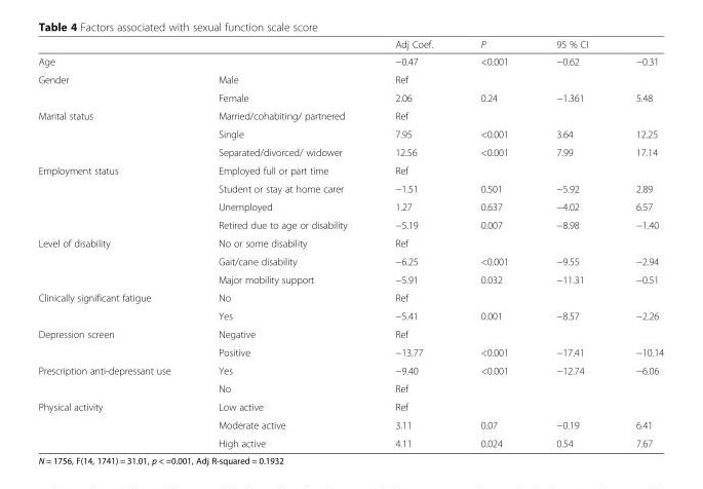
<table><thead><tr><td></td><td></td><td>Adj Coef.</td><td>P</td><td>95 % CI</td><td></td></tr></thead><tbody><tr><td>Age</td><td></td><td>−0.47</td><td>&lt;0.001</td><td>−0.62</td><td>−0.31</td></tr><tr><td rowspan="2">Gender</td><td>Male</td><td>Ref</td><td></td><td></td><td></td></tr><tr><td>Female</td><td>2.06</td><td>0.24</td><td>−1.361</td><td>5.48</td></tr><tr><td rowspan="3">Marital status</td><td>Married/cohabiting/ partnered</td><td>Ref</td><td></td><td></td><td></td></tr><tr><td>Single</td><td>7.95</td><td>&lt;0.001</td><td>3.64</td><td>12.25</td></tr><tr><td>Separated/divorced/ widower</td><td>12.56</td><td>&lt;0.001</td><td>7.99</td><td>17.14</td></tr><tr><td rowspan="4">Employment status</td><td>Employed full or part time</td><td>Ref</td><td></td><td></td><td></td></tr><tr><td>Student or stay at home carer</td><td>−1.51</td><td>0.501</td><td>−5.92</td><td>2.89</td></tr><tr><td>Unemployed</td><td>1.27</td><td>0.637</td><td>−4.02</td><td>6.57</td></tr><tr><td>Retired due to age or disability</td><td>−5.19</td><td>0.007</td><td>−8.98</td><td>−1.40</td></tr><tr><td rowspan="3">Level of disability</td><td>No or some disability</td><td>Ref</td><td></td><td></td><td></td></tr><tr><td>Gait/cane disability</td><td>−6.25</td><td>&lt;0.001</td><td>−9.55</td><td>−2.94</td></tr><tr><td>Major mobility support</td><td>−5.91</td><td>0.032</td><td>−11.31</td><td>−0.51</td></tr><tr><td rowspan="2">Clinically significant fatigue</td><td>No</td><td>Ref</td><td></td><td></td><td></td></tr><tr><td>Yes</td><td>−5.41</td><td>0.001</td><td>−8.57</td><td>−2.26</td></tr><tr><td rowspan="2">Depression screen</td><td>Negative</td><td>Ref</td><td></td><td></td><td></td></tr><tr><td>Positive</td><td>−13.77</td><td>&lt;0.001</td><td>−17.41</td><td>−10.14</td></tr><tr><td rowspan="2">Prescription anti-depressant use</td><td>Yes</td><td>−9.40</td><td>&lt;0.001</td><td>−12.74</td><td>−6.06</td></tr><tr><td>No</td><td>Ref</td><td></td><td></td><td></td></tr><tr><td rowspan="3">Physical activity</td><td>Low active</td><td>Ref</td><td></td><td></td><td></td></tr><tr><td>Moderate active</td><td>3.11</td><td>0.07</td><td>−0.19</td><td>6.41</td></tr><tr><td>High active</td><td>4.11</td><td>0.024</td><td>0.54</td><td>7.67</td></tr></tbody></table>